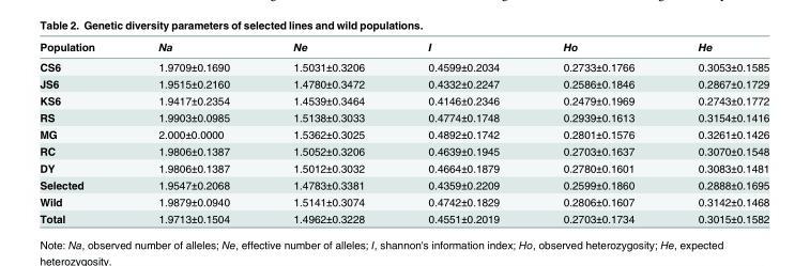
<table><thead><tr><td>Population</td><td>Na</td><td>Ne</td><td>I</td><td>Ho</td><td>He</td></tr></thead><tbody><tr><td>CS6</td><td>1.9709±0.1690</td><td>1.5031±0.3206</td><td>0.4599±0.2034</td><td>0.2733±0.1766</td><td>0.3053±0.1585</td></tr><tr><td>JS6</td><td>1.9515±0.2160</td><td>1.4780±0.3472</td><td>0.4332±0.2247</td><td>0.2586±0.1846</td><td>0.2867±0.1729</td></tr><tr><td>KS6</td><td>1.9417±0.2354</td><td>1.4539±0.3464</td><td>0.4146±0.2346</td><td>0.2479±0.1969</td><td>0.2743±0.1772</td></tr><tr><td>RS</td><td>1.9903±0.0985</td><td>1.5138±0.3033</td><td>0.4774±0.1748</td><td>0.2939±0.1613</td><td>0.3154±0.1416</td></tr><tr><td>MG</td><td>2.000±0.0000</td><td>1.5362±0.3025</td><td>0.4892±0.1742</td><td>0.2801±0.1576</td><td>0.3261±0.1426</td></tr><tr><td>RC</td><td>1.9806±0.1387</td><td>1.5052±0.3206</td><td>0.4639±0.1945</td><td>0.2703±0.1637</td><td>0.3070±0.1548</td></tr><tr><td>DY</td><td>1.9806±0.1387</td><td>1.5012±0.3032</td><td>0.4664±0.1879</td><td>0.2780±0.1601</td><td>0.3083±0.1481</td></tr><tr><td>Selected</td><td>1.9547±0.2068</td><td>1.4783±0.3381</td><td>0.4359±0.2209</td><td>0.2599±0.1860</td><td>0.2888±0.1695</td></tr><tr><td>Wild</td><td>1.9879±0.0940</td><td>1.5141±0.3074</td><td>0.4742±0.1829</td><td>0.2806±0.1607</td><td>0.3142±0.1468</td></tr><tr><td>Total</td><td>1.9713±0.1504</td><td>1.4962±0.3228</td><td>0.4551±0.2019</td><td>0.2703±0.1734</td><td>0.3015±0.1582</td></tr></tbody></table>